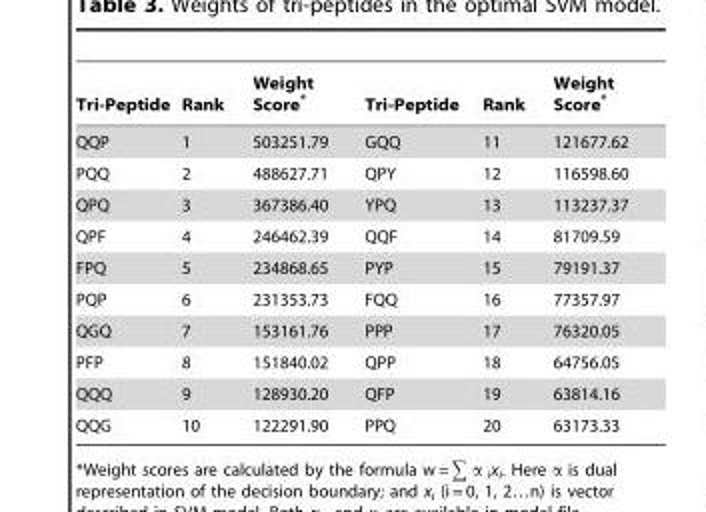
<table><thead><tr><td>Tri-Peptide</td><td>Rank</td><td>Weight Score*</td><td>Tri-Peptide</td><td>Rank</td><td>Weight Score*</td></tr></thead><tbody><tr><td>QQP</td><td>1</td><td>503251.79</td><td>GQQ</td><td>11</td><td>121677.62</td></tr><tr><td>PQQ</td><td>2</td><td>488627.71</td><td>QPY</td><td>12</td><td>116598.60</td></tr><tr><td>QPQ</td><td>3</td><td>367386.40</td><td>YPQ</td><td>13</td><td>113237.37</td></tr><tr><td>QPF</td><td>4</td><td>246462.39</td><td>QQF</td><td>14</td><td>81709.59</td></tr><tr><td>FPQ</td><td>5</td><td>234868.65</td><td>PYP</td><td>15</td><td>79191.37</td></tr><tr><td>PQP</td><td>6</td><td>231353.73</td><td>FQQ</td><td>16</td><td>77357.97</td></tr><tr><td>QGQ</td><td>7</td><td>153161.76</td><td>PPP</td><td>17</td><td>76320.05</td></tr><tr><td>PFP</td><td>8</td><td>151840.02</td><td>QPP</td><td>18</td><td>64756.05</td></tr><tr><td>QQQ</td><td>9</td><td>128930.20</td><td>QFP</td><td>19</td><td>63814.16</td></tr><tr><td>QQG</td><td>10</td><td>122291.90</td><td>PPQ</td><td>20</td><td>63173.33</td></tr></tbody></table>